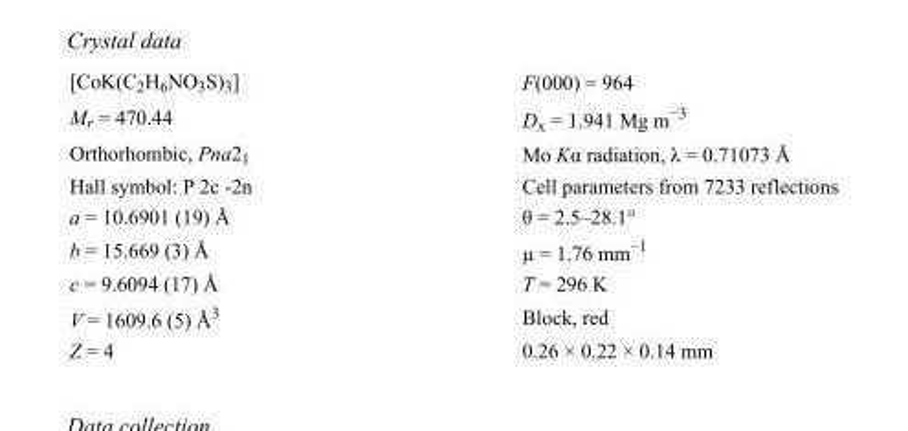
<table><tbody><tr><td>[CoK(C<sub>2</sub>H<sub>6</sub>NO<sub>3</sub>S)<sub>3</sub>]</td><td>F(000) = 964</td></tr><tr><td>M<sub>r</sub> = 470.44</td><td>D<sub>x</sub> = 1.941 Mg m<sup>−3</sup></td></tr><tr><td>Orthorhombic, Pna2<sub>1</sub></td><td>Mo Kα radiation, λ = 0.71073 Å</td></tr><tr><td>Hall symbol: P 2c -2n</td><td>Cell parameters from 7233 reflections</td></tr><tr><td>a = 10.6901 (19) Å</td><td>θ = 2.5–28.1°</td></tr><tr><td>b = 15.669 (3) Å</td><td>µ = 1.76 mm<sup>−1</sup></td></tr><tr><td>c = 9.6094 (17) Å</td><td>T = 296 K</td></tr><tr><td>V = 1609.6 (5) Å<sup>3</sup></td><td>Block, red</td></tr><tr><td>Z = 4</td><td>0.26 × 0.22 × 0.14 mm</td></tr></tbody></table>